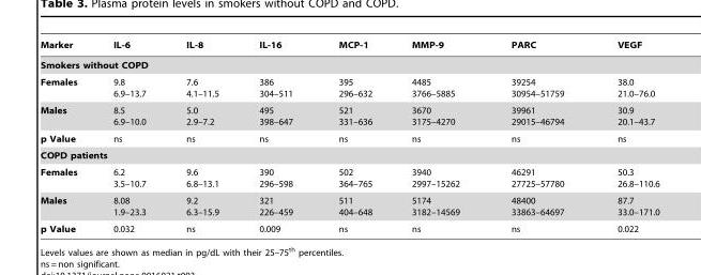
<table><thead><tr><td>Marker</td><td>IL-6</td><td>IL-8</td><td>IL-16</td><td>MCP-1</td><td>MMP-9</td><td>PARC</td><td>VEGF</td></tr></thead><tbody><tr><td colspan="8">Smokers without COPD</td></tr><tr><td>Females</td><td>9.8 6.9–13.7</td><td>7.6 4.1–11.5</td><td>386 304–511</td><td>395 296–632</td><td>4485 3766–5885</td><td>39254 30954–51759</td><td>38.0 21.0–76.0</td></tr><tr><td>Males</td><td>8.5 6.9–10.0</td><td>5.0 2.9–7.2</td><td>495 398–647</td><td>521 331–636</td><td>3670 3175–4270</td><td>39961 29015–46794</td><td>30.9 20.1–43.7</td></tr><tr><td>p Value</td><td>ns</td><td>ns</td><td>ns</td><td>ns</td><td>ns</td><td>ns</td><td>ns</td></tr><tr><td colspan="8">COPD patients</td></tr><tr><td>Females</td><td>6.2 3.5–10.7</td><td>9.6 6.8–13.1</td><td>390 296–598</td><td>502 364–765</td><td>3940 2997–15262</td><td>46291 27725–57780</td><td>50.3 26.8–110.6</td></tr><tr><td>Males</td><td>8.08 1.9–23.3</td><td>9.2 6.3–15.9</td><td>321 226–459</td><td>511 404–648</td><td>5174 3182–14569</td><td>48400 33863–64697</td><td>87.7 33.0–171.0</td></tr><tr><td>p Value</td><td>0.032</td><td>ns</td><td>0.009</td><td>ns</td><td>ns</td><td>ns</td><td>0.022</td></tr></tbody></table>